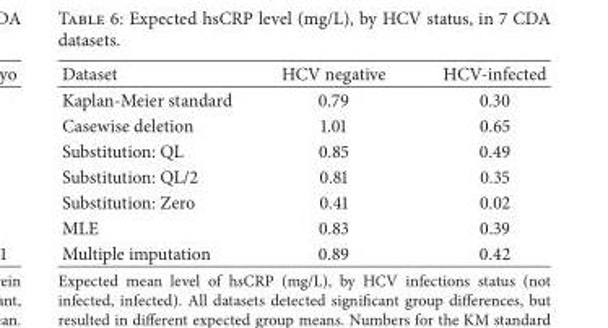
<table><thead><tr><td>Dataset</td><td>HCV negative</td><td>HCV-infected</td></tr></thead><tbody><tr><td>Kaplan-Meier standard</td><td>0.79</td><td>0.30</td></tr><tr><td>Casewise deletion</td><td>1.01</td><td>0.65</td></tr><tr><td>Substitution: QL</td><td>0.85</td><td>0.49</td></tr><tr><td>Substitution: QL/2</td><td>0.81</td><td>0.35</td></tr><tr><td>Substitution: Zero</td><td>0.41</td><td>0.02</td></tr><tr><td>MLE</td><td>0.83</td><td>0.39</td></tr><tr><td>Multiple imputation</td><td>0.89</td><td>0.42</td></tr></tbody></table>